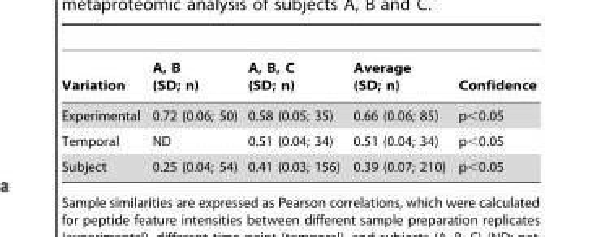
<table><thead><tr><td>Variation</td><td>A, B (SD; n)</td><td>A, B, C (SD; n)</td><td>Average (SD; n)</td><td>Confidence</td></tr></thead><tbody><tr><td>Experimental</td><td>0.72 (0.06; 50)</td><td>0.58 (0.05; 35)</td><td>0.66 (0.06; 85)</td><td>p&lt;0.05</td></tr><tr><td>Temporal</td><td>ND</td><td>0.51 (0.04; 34)</td><td>0.51 (0.04; 34)</td><td>p&lt;0.05</td></tr><tr><td>Subject</td><td>0.25 (0.04; 54)</td><td>0.41 (0.03; 156)</td><td>0.39 (0.07; 210)</td><td>p&lt;0.05</td></tr></tbody></table>